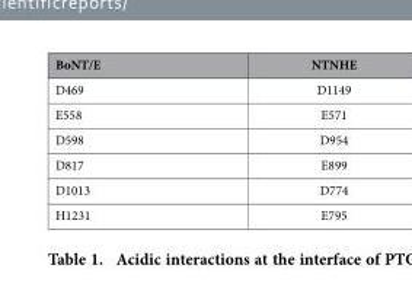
<table><thead><tr><td>BoNT/E</td><td>NTNHE</td></tr></thead><tbody><tr><td>D469</td><td>D1149</td></tr><tr><td>E558</td><td>E571</td></tr><tr><td>D598</td><td>D954</td></tr><tr><td>D817</td><td>E899</td></tr><tr><td>D1013</td><td>D774</td></tr><tr><td>H1231</td><td>E795</td></tr></tbody></table>